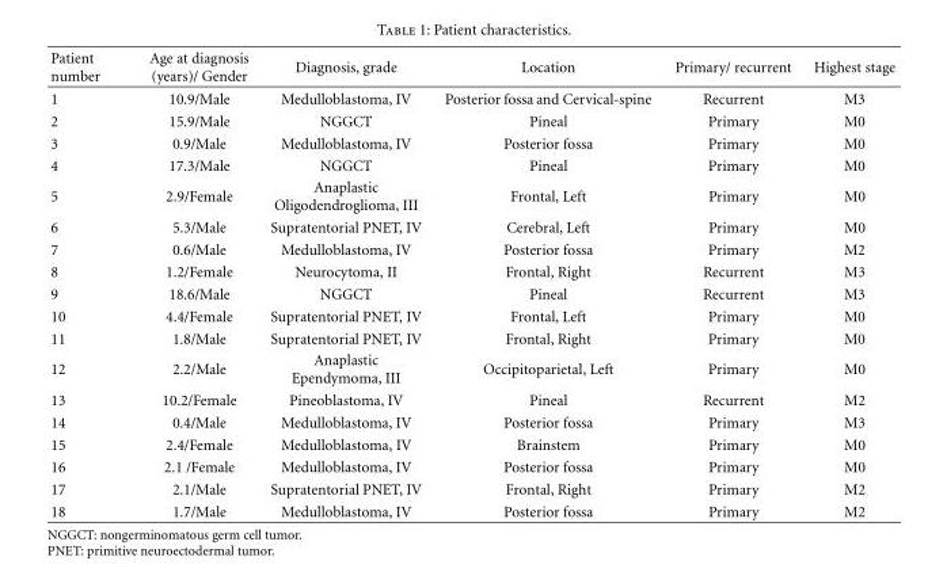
<table><thead><tr><td>Patient number</td><td>Age at diagnosis (years)/ Gender</td><td>Diagnosis, grade</td><td>Location</td><td>Primary/ recurrent</td><td>Highest stage</td></tr></thead><tbody><tr><td>1</td><td>10.9/Male</td><td>Medulloblastoma, IV</td><td>Posterior fossa and Cervical-spine</td><td>Recurrent</td><td>M3</td></tr><tr><td>2</td><td>15.9/Male</td><td>NGGCT</td><td>Pineal</td><td>Primary</td><td>M0</td></tr><tr><td>3</td><td>0.9/Male</td><td>Medulloblastoma, IV</td><td>Posterior fossa</td><td>Primary</td><td>M0</td></tr><tr><td>4</td><td>17.3/Male</td><td>NGGCT</td><td>Pineal</td><td>Primary</td><td>M0</td></tr><tr><td>5</td><td>2.9/Female</td><td>Anaplastic Oligodendroglioma, III</td><td>Frontal, Left</td><td>Primary</td><td>M0</td></tr><tr><td>6</td><td>5.3/Male</td><td>Supratentorial PNET, IV</td><td>Cerebral, Left</td><td>Primary</td><td>M0</td></tr><tr><td>7</td><td>0.6/Male</td><td>Medulloblastoma, IV</td><td>Posterior fossa</td><td>Primary</td><td>M2</td></tr><tr><td>8</td><td>1.2/Female</td><td>Neurocytoma, II</td><td>Frontal, Right</td><td>Recurrent</td><td>M3</td></tr><tr><td>9</td><td>18.6/Male</td><td>NGGCT</td><td>Pineal</td><td>Recurrent</td><td>M3</td></tr><tr><td>10</td><td>4.4/Female</td><td>Supratentorial PNET, IV</td><td>Frontal, Left</td><td>Primary</td><td>M0</td></tr><tr><td>11</td><td>1.8/Male</td><td>Supratentorial PNET, IV</td><td>Frontal, Right</td><td>Primary</td><td>M0</td></tr><tr><td>12</td><td>2.2/Male</td><td>Anaplastic Ependymoma, III</td><td>Occipitoparietal, Left</td><td>Primary</td><td>M0</td></tr><tr><td>13</td><td>10.2/Female</td><td>Pineoblastoma, IV</td><td>Pineal</td><td>Recurrent</td><td>M2</td></tr><tr><td>14</td><td>0.4/Male</td><td>Medulloblastoma, IV</td><td>Posterior fossa</td><td>Primary</td><td>M3</td></tr><tr><td>15</td><td>2.4/Female</td><td>Medulloblastoma, IV</td><td>Brainstem</td><td>Primary</td><td>M0</td></tr><tr><td>16</td><td>2.1 /Female</td><td>Medulloblastoma, IV</td><td>Posterior fossa</td><td>Primary</td><td>M0</td></tr><tr><td>17</td><td>2.1/Male</td><td>Supratentorial PNET, IV</td><td>Frontal, Right</td><td>Primary</td><td>M2</td></tr><tr><td>18</td><td>1.7/Male</td><td>Medulloblastoma, IV</td><td>Posterior fossa</td><td>Primary</td><td>M2</td></tr></tbody></table>